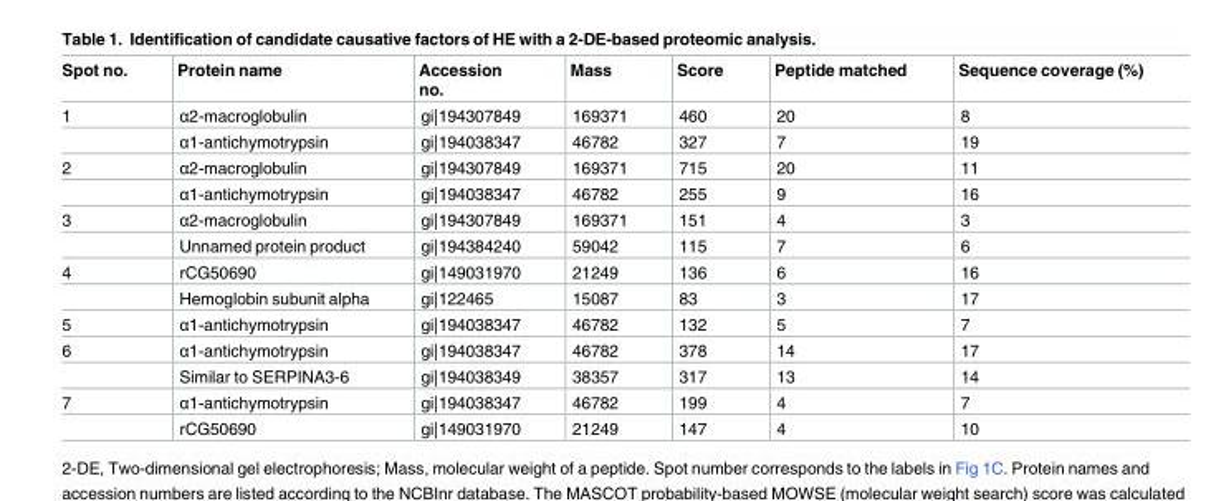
<table><thead><tr><td>Spot no.</td><td>Protein name</td><td>Accession no.</td><td>Mass</td><td>Score</td><td>Peptide matched</td><td>Sequence coverage (%)</td></tr></thead><tbody><tr><td rowspan="2">1</td><td>α2-macroglobulin</td><td>gi|194307849</td><td>169371</td><td>460</td><td>20</td><td>8</td></tr><tr><td>α1-antichymotrypsin</td><td>gi|194038347</td><td>46782</td><td>327</td><td>7</td><td>19</td></tr><tr><td rowspan="2">2</td><td>α2-macroglobulin</td><td>gi|194307849</td><td>169371</td><td>715</td><td>20</td><td>11</td></tr><tr><td>α1-antichymotrypsin</td><td>gi|194038347</td><td>46782</td><td>255</td><td>9</td><td>16</td></tr><tr><td rowspan="2">3</td><td>α2-macroglobulin</td><td>gi|194307849</td><td>169371</td><td>151</td><td>4</td><td>3</td></tr><tr><td>Unnamed protein product</td><td>gi|194384240</td><td>59042</td><td>115</td><td>7</td><td>6</td></tr><tr><td rowspan="2">4</td><td>rCG50690</td><td>gi|149031970</td><td>21249</td><td>136</td><td>6</td><td>16</td></tr><tr><td>Hemoglobin subunit alpha</td><td>gi|122465</td><td>15087</td><td>83</td><td>3</td><td>17</td></tr><tr><td>5</td><td>α1-antichymotrypsin</td><td>gi|194038347</td><td>46782</td><td>132</td><td>5</td><td>7</td></tr><tr><td rowspan="2">6</td><td>α1-antichymotrypsin</td><td>gi|194038347</td><td>46782</td><td>378</td><td>14</td><td>17</td></tr><tr><td>Similar to SERPINA3-6</td><td>gi|194038349</td><td>38357</td><td>317</td><td>13</td><td>14</td></tr><tr><td rowspan="2">7</td><td>α1-antichymotrypsin</td><td>gi|194038347</td><td>46782</td><td>199</td><td>4</td><td>7</td></tr><tr><td>rCG50690</td><td>gi|149031970</td><td>21249</td><td>147</td><td>4</td><td>10</td></tr></tbody></table>